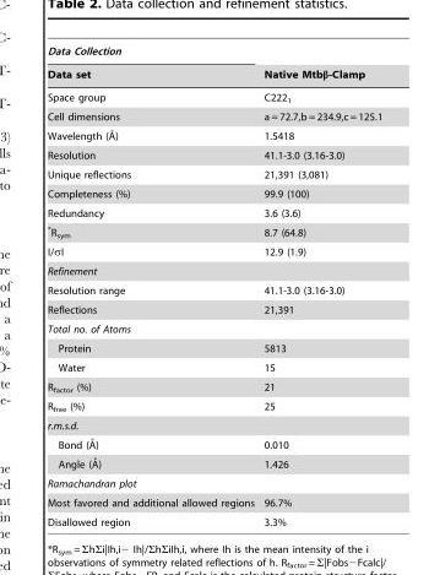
<table><thead><tr><td rowspan="2">Data Collection Data set</td><td rowspan="2">Native Mtbβ-Clamp</td></tr><tr></tr></thead><tbody><tr><td>Space group</td><td>C222<sub>1</sub></td></tr><tr><td>Cell dimensions</td><td>a = 72.7,b = 234.9,c = 125.1</td></tr><tr><td>Wavelength (A˚)</td><td>1.5418</td></tr><tr><td>Resolution</td><td>41.1-3.0 (3.16-3.0)</td></tr><tr><td>Unique reflections</td><td>21,391 (3,081)</td></tr><tr><td>Completeness (%)</td><td>99.9 (100)</td></tr><tr><td>Redundancy</td><td>3.6 (3.6)</td></tr><tr><td>*R<sub>sym</sub></td><td>8.7 (64.8)</td></tr><tr><td>I/σI</td><td>12.9 (1.9)</td></tr><tr><td colspan="2">Refinement</td></tr><tr><td>Resolution range</td><td>41.1-3.0 (3.16-3.0)</td></tr><tr><td>Reflections</td><td>21,391</td></tr><tr><td colspan="2">Total no. of Atoms</td></tr><tr><td>Protein</td><td>5813</td></tr><tr><td>Water</td><td>15</td></tr><tr><td>R<sub>factor</sub> (%)</td><td>21</td></tr><tr><td>R<sub>free</sub> (%)</td><td>25</td></tr><tr><td colspan="2">r.m.s.d.</td></tr><tr><td>Bond (A˚)</td><td>0.010</td></tr><tr><td>Angle (A˚)</td><td>1.426</td></tr><tr><td colspan="2">Ramachandran plot</td></tr><tr><td>Most favored and additional allowed regions</td><td>96.7%</td></tr><tr><td>Disallowed region</td><td>3.3%</td></tr></tbody></table>